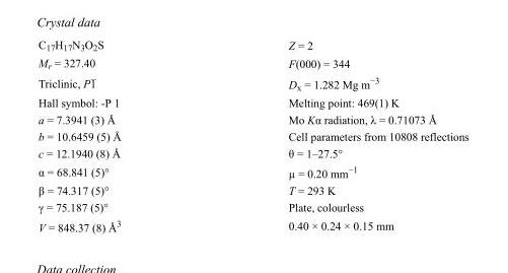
<table><tbody><tr><td>C<sub>17</sub>H<sub>17</sub>N<sub>3</sub>O<sub>2</sub>S</td><td>Z = 2</td></tr><tr><td>M<sub>r</sub> = 327.40</td><td>F(000) = 344</td></tr><tr><td>Triclinic, P1</td><td>D<sub>x</sub> = 1.282 Mg m<sup>−3</sup></td></tr><tr><td>Hall symbol: -P 1</td><td>Melting point: 469(1) K</td></tr><tr><td>a = 7.3941 (3) Å</td><td>Mo Kα radiation, λ = 0.71073 Å</td></tr><tr><td>b = 10.6459 (5) Å</td><td>Cell parameters from 10808 reflections</td></tr><tr><td>c = 12.1940 (8) Å</td><td>θ = 1–27.5°</td></tr><tr><td>α = 68.841 (5)°</td><td>µ = 0.20 mm<sup>−1</sup></td></tr><tr><td>β = 74.317 (5)°</td><td>T = 293 K</td></tr><tr><td>γ = 75.187 (5)°</td><td>Plate, colourless</td></tr><tr><td>V = 848.37 (8) Å<sup>3</sup></td><td>0.40 × 0.24 × 0.15 mm</td></tr></tbody></table>